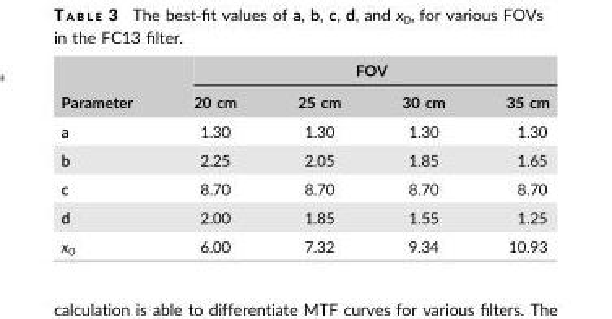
<table><thead><tr><td rowspan="2">Parameter</td><td colspan="4">FOV</td></tr><tr><td>20 cm</td><td>25 cm</td><td>30 cm</td><td>35 cm</td></tr></thead><tbody><tr><td>a</td><td>1.30</td><td>1.30</td><td>1.30</td><td>1.30</td></tr><tr><td>b</td><td>2.25</td><td>2.05</td><td>1.85</td><td>1.65</td></tr><tr><td>c</td><td>8.70</td><td>8.70</td><td>8.70</td><td>8.70</td></tr><tr><td>d</td><td>2.00</td><td>1.85</td><td>1.55</td><td>1.25</td></tr><tr><td>x<sub>0</sub></td><td>6.00</td><td>7.32</td><td>9.34</td><td>10.93</td></tr></tbody></table>